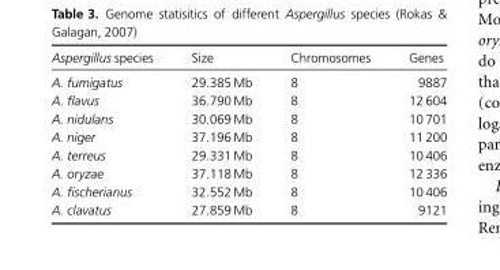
<table><thead><tr><td>Aspergillus species</td><td>Size</td><td>Chromosomes</td><td>Genes</td></tr></thead><tbody><tr><td>A. fumigatus</td><td>29.385 Mb</td><td>8</td><td>9887</td></tr><tr><td>A. flavus</td><td>36.790 Mb</td><td>8</td><td>12 604</td></tr><tr><td>A. nidulans</td><td>30.069 Mb</td><td>8</td><td>10 701</td></tr><tr><td>A. niger</td><td>37.196 Mb</td><td>8</td><td>11 200</td></tr><tr><td>A. terreus</td><td>29.331 Mb</td><td>8</td><td>10 406</td></tr><tr><td>A. oryzae</td><td>37.118 Mb</td><td>8</td><td>12 336</td></tr><tr><td>A. fischerianus</td><td>32.552 Mb</td><td>8</td><td>10 406</td></tr><tr><td>A. clavatus</td><td>27.859 Mb</td><td>8</td><td>9121</td></tr></tbody></table>